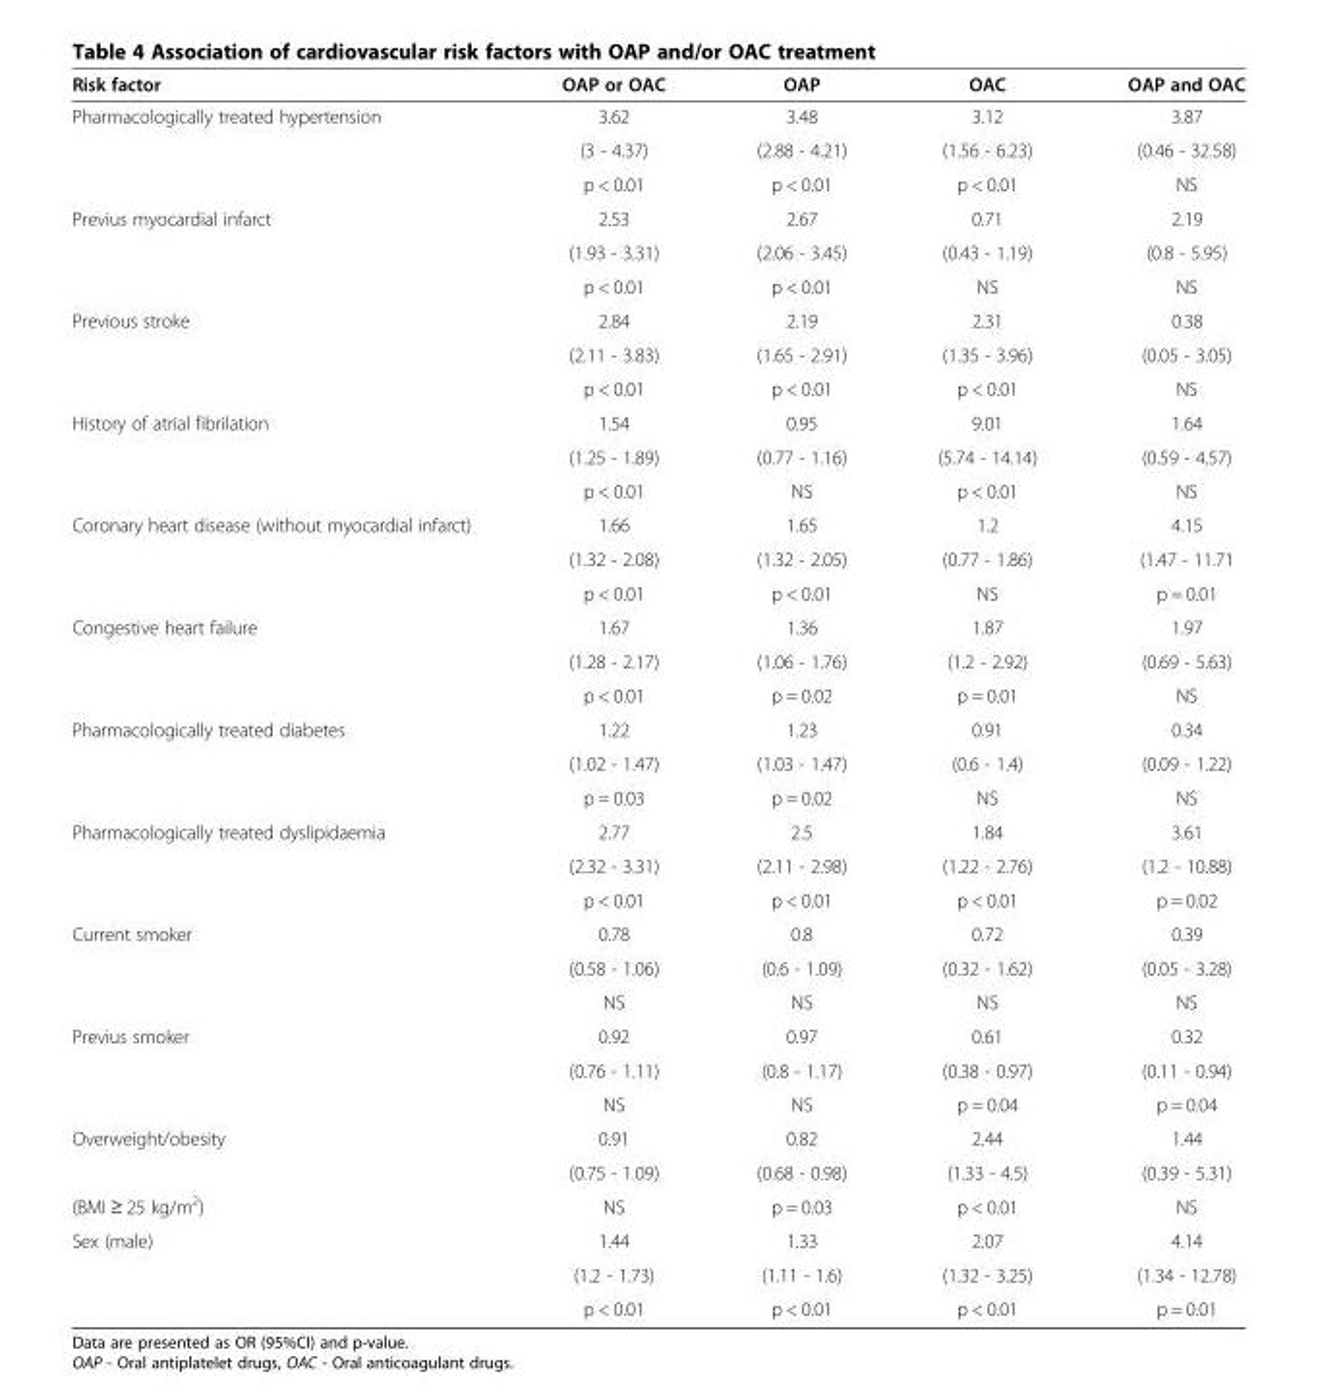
<table><thead><tr><td>Risk factor</td><td>OAP or OAC</td><td>OAP</td><td>OAC</td><td>OAP and OAC</td></tr></thead><tbody><tr><td rowspan="3">Pharmacologically treated hypertension</td><td>3.62</td><td>3.48</td><td>3.12</td><td>3.87</td></tr><tr><td>(3 - 4.37)</td><td>(2.88 - 4.21)</td><td>(1.56 - 6.23)</td><td>(0.46 - 32.58)</td></tr><tr><td>p &lt; 0.01</td><td>p &lt; 0.01</td><td>p &lt; 0.01</td><td>NS</td></tr><tr><td rowspan="3">Previus myocardial infarct</td><td>2.53</td><td>2.67</td><td>0.71</td><td>2.19</td></tr><tr><td>(1.93 - 3.31)</td><td>(2.06 - 3.45)</td><td>(0.43 - 1.19)</td><td>(0.8 - 5.95)</td></tr><tr><td>p &lt; 0.01</td><td>p &lt; 0.01</td><td>NS</td><td>NS</td></tr><tr><td rowspan="3">Previous stroke</td><td>2.84</td><td>2.19</td><td>2.31</td><td>0.38</td></tr><tr><td>(2.11 - 3.83)</td><td>(1.65 - 2.91)</td><td>(1.35 - 3.96)</td><td>(0.05 - 3.05)</td></tr><tr><td>p &lt; 0.01</td><td>p &lt; 0.01</td><td>p &lt; 0.01</td><td>NS</td></tr><tr><td rowspan="3">History of atrial fibrilation</td><td>1.54</td><td>0.95</td><td>9.01</td><td>1.64</td></tr><tr><td>(1.25 - 1.89)</td><td>(0.77 - 1.16)</td><td>(5.74 - 14.14)</td><td>(0.59 - 4.57)</td></tr><tr><td>p &lt; 0.01</td><td>NS</td><td>p &lt; 0.01</td><td>NS</td></tr><tr><td rowspan="3">Coronary heart disease (without myocardial infarct)</td><td>1.66</td><td>1.65</td><td>1.2</td><td>4.15</td></tr><tr><td>(1.32 - 2.08)</td><td>(1.32 - 2.05)</td><td>(0.77 - 1.86)</td><td>(1.47 - 11.71</td></tr><tr><td>p &lt; 0.01</td><td>p &lt; 0.01</td><td>NS</td><td>p = 0.01</td></tr><tr><td rowspan="3">Congestive heart failure</td><td>1.67</td><td>1.36</td><td>1.87</td><td>1.97</td></tr><tr><td>(1.28 - 2.17)</td><td>(1.06 - 1.76)</td><td>(1.2 - 2.92)</td><td>(0.69 - 5.63)</td></tr><tr><td>p &lt; 0.01</td><td>p = 0.02</td><td>p = 0.01</td><td>NS</td></tr><tr><td rowspan="3">Pharmacologically treated diabetes</td><td>1.22</td><td>1.23</td><td>0.91</td><td>0.34</td></tr><tr><td>(1.02 - 1.47)</td><td>(1.03 - 1.47)</td><td>(0.6 - 1.4)</td><td>(0.09 - 1.22)</td></tr><tr><td>p = 0.03</td><td>p = 0.02</td><td>NS</td><td>NS</td></tr><tr><td rowspan="3">Pharmacologically treated dyslipidaemia</td><td>2.77</td><td>2.5</td><td>1.84</td><td>3.61</td></tr><tr><td>(2.32 - 3.31)</td><td>(2.11 - 2.98)</td><td>(1.22 - 2.76)</td><td>(1.2 - 10.88)</td></tr><tr><td>p &lt; 0.01</td><td>p &lt; 0.01</td><td>p &lt; 0.01</td><td>p = 0.02</td></tr><tr><td rowspan="3">Current smoker</td><td>0.78</td><td>0.8</td><td>0.72</td><td>0.39</td></tr><tr><td>(0.58 - 1.06)</td><td>(0.6 - 1.09)</td><td>(0.32 - 1.62)</td><td>(0.05 - 3.28)</td></tr><tr><td>NS</td><td>NS</td><td>NS</td><td>NS</td></tr><tr><td rowspan="3">Previus smoker</td><td>0.92</td><td>0.97</td><td>0.61</td><td>0.32</td></tr><tr><td>(0.76 - 1.11)</td><td>(0.8 - 1.17)</td><td>(0.38 - 0.97)</td><td>(0.11 - 0.94)</td></tr><tr><td>NS</td><td>NS</td><td>p = 0.04</td><td>p = 0.04</td></tr><tr><td rowspan="2">Overweight/obesity</td><td>0.91</td><td>0.82</td><td>2.44</td><td>1.44</td></tr><tr><td>(0.75 - 1.09)</td><td>(0.68 - 0.98)</td><td>(1.33 - 4.5)</td><td>(0.39 - 5.31)</td></tr><tr><td>(BMI ≥ 25 kg/m<sup>2</sup>)</td><td>NS</td><td>p = 0.03</td><td>p &lt; 0.01</td><td>NS</td></tr><tr><td rowspan="3">Sex (male)</td><td>1.44</td><td>1.33</td><td>2.07</td><td>4.14</td></tr><tr><td>(1.2 - 1.73)</td><td>(1.11 - 1.6)</td><td>(1.32 - 3.25)</td><td>(1.34 - 12.78)</td></tr><tr><td>p &lt; 0.01</td><td>p &lt; 0.01</td><td>p &lt; 0.01</td><td>p = 0.01</td></tr></tbody></table>